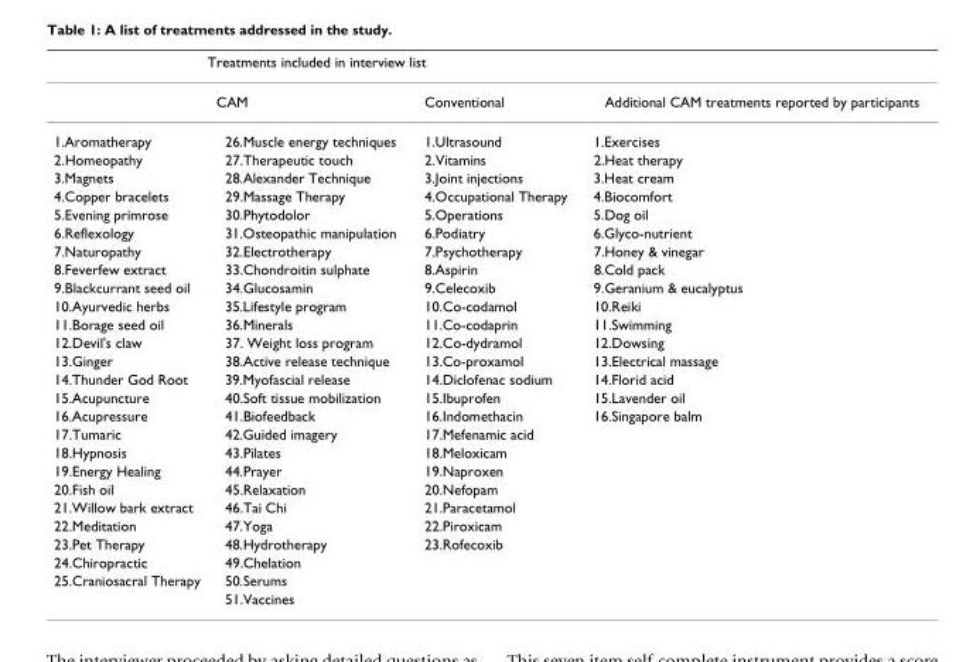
<table><thead><tr><td colspan="3">Treatments included in interview list</td><td rowspan="3">Additional CAM treatments reported by participants 1.Exercises</td></tr><tr><td colspan="2">CAM</td><td rowspan="2">Conventional 1.Ultrasound</td></tr><tr><td>1.Aromatherapy</td><td>26.Muscle energy techniques</td></tr></thead><tbody><tr><td>2.Homeopathy</td><td>27.Therapeutic touch</td><td>2.Vitamins</td><td>2.Heat therapy</td></tr><tr><td>3.Magnets</td><td>28.Alexander Technique</td><td>3.Joint injections</td><td>3.Heat cream</td></tr><tr><td>4.Copper bracelets</td><td>29.Massage Therapy</td><td>4.Occupational Therapy</td><td>4.Biocomfort</td></tr><tr><td>5.Evening primrose</td><td>30.Phytodolor</td><td>5.Operations</td><td>5.Dog oil</td></tr><tr><td>6.Reflexology</td><td>31.Osteopathic manipulation</td><td>6.Podiatry</td><td>6.Glyco-nutrient</td></tr><tr><td>7.Naturopathy</td><td>32.Electrotherapy</td><td>7.Psychotherapy</td><td>7.Honey &amp; vinegar</td></tr><tr><td>8.Feverfew extract</td><td>33.Chondroitin sulphate</td><td>8.Aspirin</td><td>8.Cold pack</td></tr><tr><td>9.Blackcurrant seed oil</td><td>34.Glucosamin</td><td>9.Celecoxib</td><td>9.Geranium &amp; eucalyptus</td></tr><tr><td>10.Ayurvedic herbs</td><td>35.Lifestyle program</td><td>10.Co-codamol</td><td>10.Reiki</td></tr><tr><td>11.Borage seed oil</td><td>36.Minerals</td><td>11.Co-codaprin</td><td>11.Swimming</td></tr><tr><td>12.Devil&#x27;s claw</td><td>37. Weight loss program</td><td>12.Co-dydramol</td><td>12.Dowsing</td></tr><tr><td>13.Ginger</td><td>38.Active release technique</td><td>13.Co-proxamol</td><td>13.Electrical massage</td></tr><tr><td>14.Thunder God Root</td><td>39.Myofascial release</td><td>14.Diclofenac sodium</td><td>14.Florid acid</td></tr><tr><td>15.Acupuncture</td><td>40.Soft tissue mobilization</td><td>15.Ibuprofen</td><td>15.Lavender oil</td></tr><tr><td>16.Acupressure</td><td>41.Biofeedback</td><td>16.Indomethacin</td><td>16.Singapore balm</td></tr><tr><td>17.Tumaric</td><td>42.Guided imagery</td><td>17.Mefenamic acid</td><td></td></tr><tr><td>18.Hypnosis</td><td>43.Pilates</td><td>18.Meloxicam</td><td></td></tr><tr><td>19.Energy Healing</td><td>44.Prayer</td><td>19.Naproxen</td><td></td></tr><tr><td>20.Fish oil</td><td>45.Relaxation</td><td>20.Nefopam</td><td></td></tr><tr><td>21.Willow bark extract</td><td>46.Tai Chi</td><td>21.Paracetamol</td><td></td></tr><tr><td>22.Meditation</td><td>47.Yoga</td><td>22.Piroxicam</td><td></td></tr><tr><td>23.Pet Therapy</td><td>48.Hydrotherapy</td><td>23.Rofecoxib</td><td></td></tr><tr><td>24.Chiropractic</td><td>49.Chelation</td><td></td><td></td></tr><tr><td rowspan="2">25.Craniosacral Therapy</td><td>50.Serums</td><td></td><td></td></tr><tr><td>51.Vaccines</td><td></td><td></td></tr></tbody></table>